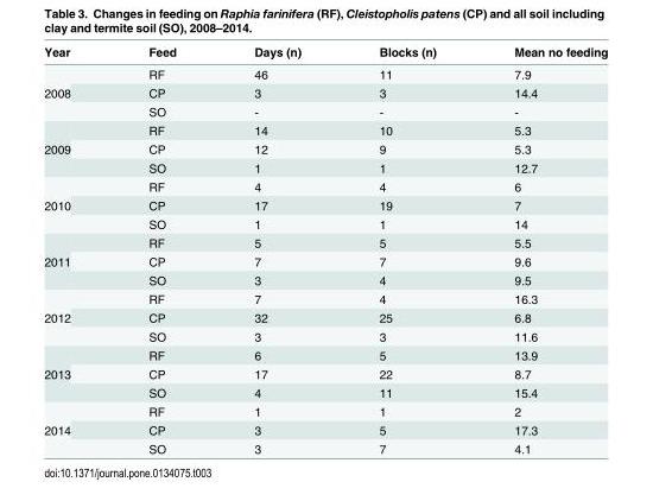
<table><thead><tr><td>Year</td><td>Feed</td><td>Days (n)</td><td>Blocks (n)</td><td>Mean no feeding</td></tr></thead><tbody><tr><td rowspan="3">2008</td><td>RF</td><td>46</td><td>11</td><td>7.9</td></tr><tr><td>CP</td><td>3</td><td>3</td><td>14.4</td></tr><tr><td>SO</td><td>-</td><td>-</td><td>-</td></tr><tr><td rowspan="3">2009</td><td>RF</td><td>14</td><td>10</td><td>5.3</td></tr><tr><td>CP</td><td>12</td><td>9</td><td>5.3</td></tr><tr><td>SO</td><td>1</td><td>1</td><td>12.7</td></tr><tr><td rowspan="3">2010</td><td>RF</td><td>4</td><td>4</td><td>6</td></tr><tr><td>CP</td><td>17</td><td>19</td><td>7</td></tr><tr><td>SO</td><td>1</td><td>1</td><td>14</td></tr><tr><td rowspan="3">2011</td><td>RF</td><td>5</td><td>5</td><td>5.5</td></tr><tr><td>CP</td><td>7</td><td>7</td><td>9.6</td></tr><tr><td>SO</td><td>3</td><td>4</td><td>9.5</td></tr><tr><td rowspan="3">2012</td><td>RF</td><td>7</td><td>4</td><td>16.3</td></tr><tr><td>CP</td><td>32</td><td>25</td><td>6.8</td></tr><tr><td>SO</td><td>3</td><td>3</td><td>11.6</td></tr><tr><td rowspan="3">2013</td><td>RF</td><td>6</td><td>5</td><td>13.9</td></tr><tr><td>CP</td><td>17</td><td>22</td><td>8.7</td></tr><tr><td>SO</td><td>4</td><td>11</td><td>15.4</td></tr><tr><td rowspan="3">2014</td><td>RF</td><td>1</td><td>1</td><td>2</td></tr><tr><td>CP</td><td>3</td><td>5</td><td>17.3</td></tr><tr><td>SO</td><td>3</td><td>7</td><td>4.1</td></tr></tbody></table>